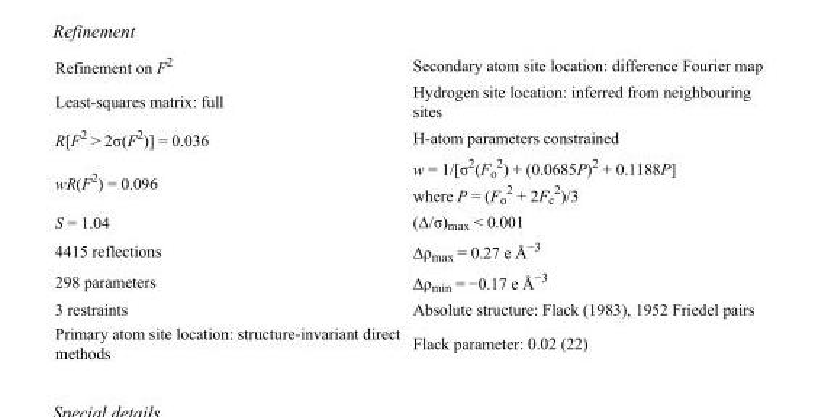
<table><tbody><tr><td>Refinement on F<sup>2</sup></td><td>Secondary atom site location: difference Fourier map</td></tr><tr><td>Least-squares matrix: full</td><td>Hydrogen site location: inferred from neighbouring sites</td></tr><tr><td>R[F<sup>2</sup> &gt; 2σ(F<sup>2</sup>)] = 0.036</td><td>H-atom parameters constrained</td></tr><tr><td>wR(F<sup>2</sup>) = 0.096</td><td>w = 1/[σ<sup>2</sup>(F<sub>o</sub> <sup>2</sup>) + (0.0685P)<sup>2</sup> + 0.1188P] where P = (F<sub>o</sub> <sup>2</sup> + 2F<sub>c</sub> <sup>2</sup>)/3</td></tr><tr><td>S = 1.04</td><td>(Δ/σ)<sub>max</sub> &lt; 0.001</td></tr><tr><td>4415 reflections</td><td>Δρ<sub>max</sub> = 0.27 e Å<sup>−3</sup></td></tr><tr><td>298 parameters</td><td>Δρmin = −0.17 e Å−3</td></tr><tr><td>3 restraints</td><td>Absolute structure: Flack (1983), 1952 Friedel pairs</td></tr><tr><td>Primary atom site location: structure-invariant direct methods</td><td>Flack parameter: 0.02 (22)</td></tr></tbody></table>